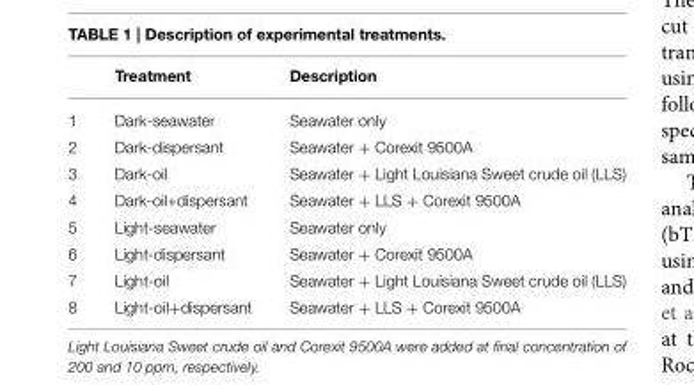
<table><thead><tr><td></td><td>Treatment</td><td>Description</td></tr></thead><tbody><tr><td>1</td><td>Dark-seawater</td><td>Seawater only</td></tr><tr><td>2</td><td>Dark-dispersant</td><td>Seawater + Corexit 9500A</td></tr><tr><td>3</td><td>Dark-oil</td><td>Seawater + Light Louisiana Sweet crude oil (LLS)</td></tr><tr><td>4</td><td>Dark-oil+dispersant</td><td>Seawater + LLS + Corexit 9500A</td></tr><tr><td>5</td><td>Light-seawater</td><td>Seawater only</td></tr><tr><td>6</td><td>Light-dispersant</td><td>Seawater + Corexit 9500A</td></tr><tr><td>7</td><td>Light-oil</td><td>Seawater + Light Louisiana Sweet crude oil (LLS)</td></tr><tr><td>8</td><td>Light-oil+dispersant</td><td>Seawater + LLS + Corexit 9500A</td></tr></tbody></table>